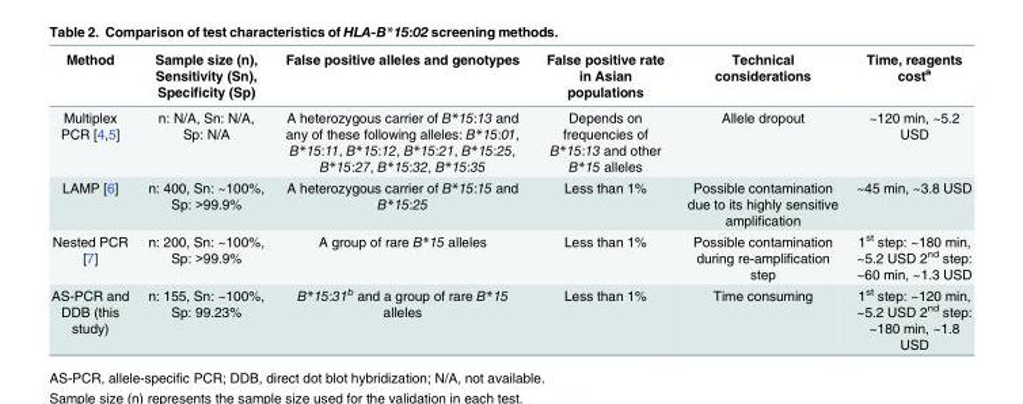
<table><thead><tr><td>Method</td><td>Sample size (n), Sensitivity (Sn), Specificity (Sp)</td><td>False positive alleles and genotypes</td><td>False positive rate in Asian populations</td><td>Technical considerations</td><td>Time, reagents cost<sup>a</sup></td></tr></thead><tbody><tr><td>Multiplex PCR [4,5]</td><td>n: N/A, Sn: N/A, Sp: N/A</td><td>A heterozygous carrier of B*15:13 and any of these following alleles: B*15:01, B*15:11, B*15:12, B*15:21, B*15:25, B*15:27, B*15:32, B*15:35</td><td>Depends on frequencies of B*15:13 and other B*15 alleles</td><td>Allele dropout</td><td>~120 min, ~5.2 USD</td></tr><tr><td>LAMP [6]</td><td>n: 400, Sn: ~100%, Sp: &gt;99.9%</td><td>A heterozygous carrier of B*15:15 and B*15:25</td><td>Less than 1%</td><td>Possible contamination due to its highly sensitive amplification</td><td>~45 min, ~3.8 USD</td></tr><tr><td>Nested PCR [7]</td><td>n: 200, Sn: ~100%, Sp: &gt;99.9%</td><td>A group of rare B*15 alleles</td><td>Less than 1%</td><td>Possible contamination during re-amplification step</td><td>1<sup>st</sup> step: ~180 min, ~5.2 USD 2<sup>nd</sup> step: ~60 min, ~1.3 USD</td></tr><tr><td>AS-PCR and DDB (this study)</td><td>n: 155, Sn: ~100%, Sp: 99.23%</td><td>B*15:31<sup>b</sup> and a group of rare B*15 alleles</td><td>Less than 1%</td><td>Time consuming</td><td>1<sup>st</sup> step: ~120 min, ~5.2 USD 2<sup>nd</sup> step: ~180 min, ~1.8 USD</td></tr></tbody></table>